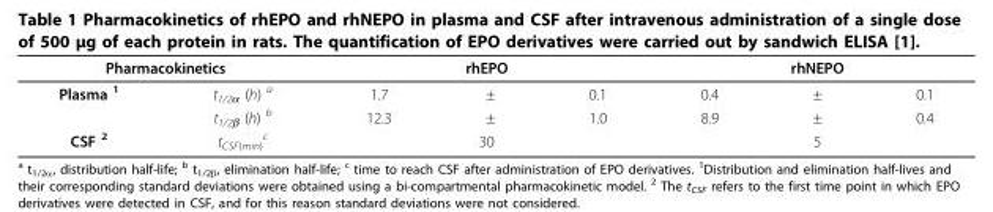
<table><thead><tr><td colspan="2">Pharmacokinetics</td><td colspan="3">rhEPO</td><td colspan="3">rhNEPO</td></tr><tr><td>Plasma <sup>1</sup></td><td>t<sub>1/2α</sub> (h) <sup>a</sup></td><td>1.7</td><td>±</td><td>0.1</td><td>0.4</td><td>±</td><td>0.1</td></tr></thead><tbody><tr><td></td><td>t<sub>1/2β</sub> (h) <sup>b</sup></td><td>12.3</td><td>±</td><td>1.0</td><td>8.9</td><td>±</td><td>0.4</td></tr><tr><td>CSF <sup>2</sup></td><td>t<sub>CSF(min)</sub> <sup>c</sup></td><td colspan="3">30</td><td colspan="3">5</td></tr></tbody></table>